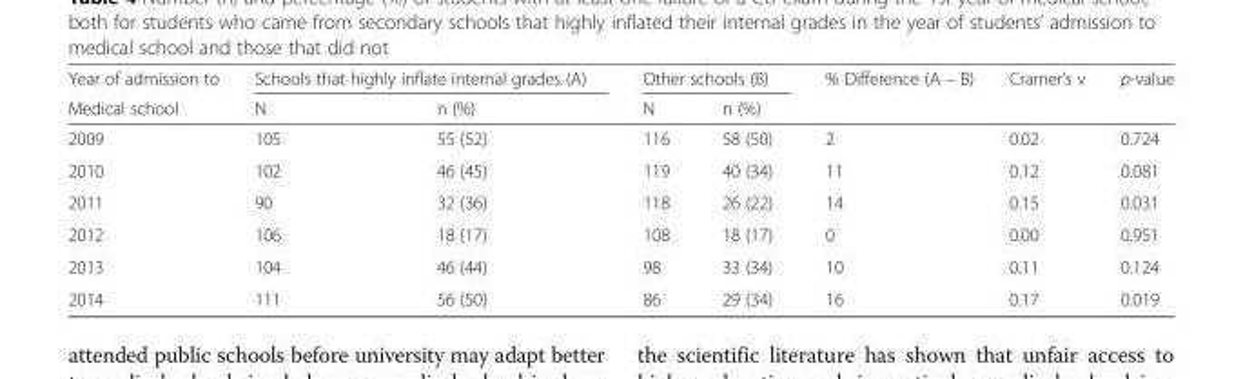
<table><thead><tr><td rowspan="2">Year of admission to Medical school</td><td colspan="2">Schools that highly inflate internal grades (A)</td><td colspan="2">Other schools (B)</td><td rowspan="2">% Difference (A – B)</td><td rowspan="2">Cramer’s v</td><td rowspan="2">p-value</td></tr><tr><td>N</td><td>n (%)</td><td>N</td><td>n (%)</td></tr></thead><tbody><tr><td>2009</td><td>105</td><td>55 (52)</td><td>116</td><td>58 (50)</td><td>2</td><td>0.02</td><td>0.724</td></tr><tr><td>2010</td><td>102</td><td>46 (45)</td><td>119</td><td>40 (34)</td><td>11</td><td>0.12</td><td>0.081</td></tr><tr><td>2011</td><td>90</td><td>32 (36)</td><td>118</td><td>26 (22)</td><td>14</td><td>0.15</td><td>0.031</td></tr><tr><td>2012</td><td>106</td><td>18 (17)</td><td>108</td><td>18 (17)</td><td>0</td><td>0.00</td><td>0.951</td></tr><tr><td>2013</td><td>104</td><td>46 (44)</td><td>98</td><td>33 (34)</td><td>10</td><td>0.11</td><td>0.124</td></tr><tr><td>2014</td><td>111</td><td>56 (50)</td><td>86</td><td>29 (34)</td><td>16</td><td>0.17</td><td>0.019</td></tr></tbody></table>